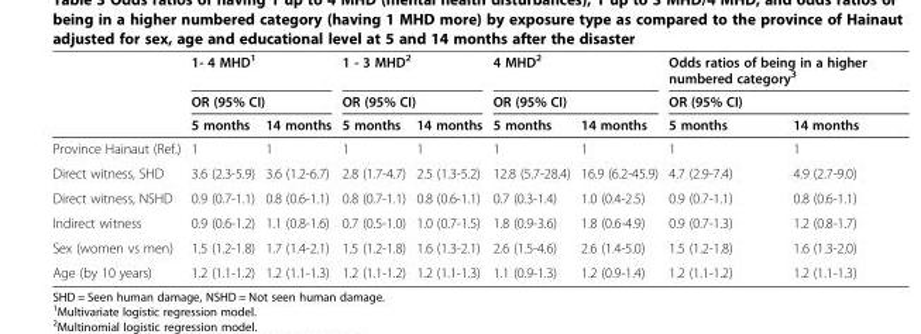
<table><thead><tr><td rowspan="3"></td><td rowspan="2" colspan="2">1- 4 MHD<sup>1</sup> OR (95% CI)</td><td rowspan="2" colspan="2">1 - 3 MHD<sup>2</sup> OR (95% CI)</td><td rowspan="2" colspan="2">4 MHD<sup>2</sup> OR (95% CI)</td><td rowspan="2" colspan="2">Odds ratios of being in a higher numbered category<sup>3</sup> OR (95% CI)</td></tr><tr></tr><tr><td>5 months</td><td>14 months</td><td>5 months</td><td>14 months</td><td>5 months</td><td>14 months</td><td>5 months</td><td>14 months</td></tr></thead><tbody><tr><td>Province Hainaut (Ref.)</td><td>1</td><td>1</td><td>1</td><td>1</td><td>1</td><td>1</td><td>1</td><td>1</td></tr><tr><td>Direct witness, SHD</td><td>3.6 (2.3-5.9)</td><td>3.6 (1.2-6.7)</td><td>2.8 (1.7-4.7)</td><td>2.5 (1.3-5.2)</td><td>12.8 (5.7-28.4)</td><td>16.9 (6.2-45.9)</td><td>4.7 (2.9-7.4)</td><td>4.9 (2.7-9.0)</td></tr><tr><td>Direct witness, NSHD</td><td>0.9 (0.7-1.1)</td><td>0.8 (0.6-1.1)</td><td>0.8 (0.7-1.1)</td><td>0.8 (0.6-1.1)</td><td>0.7 (0.3-1.4)</td><td>1.0 (0.4-2.5)</td><td>0.9 (0.7-1.1)</td><td>0.8 (0.6-1.1)</td></tr><tr><td>Indirect witness</td><td>0.9 (0.6-1.2)</td><td>1.1 (0.8-1.6)</td><td>0.7 (0.5-1.0)</td><td>1.0 (0.7-1.5)</td><td>1.8 (0.9-3.6)</td><td>1.8 (0.6-4.9)</td><td>0.9 (0.7-1.3)</td><td>1.2 (0.8-1.7)</td></tr><tr><td>Sex (women vs men)</td><td>1.5 (1.2-1.8)</td><td>1.7 (1.4-2.1)</td><td>1.5 (1.2-1.8)</td><td>1.6 (1.3-2.1)</td><td>2.6 (1.5-4.6)</td><td>2.6 (1.4-5.0)</td><td>1.5 (1.2-1.8)</td><td>1.6 (1.3-2.0)</td></tr><tr><td>Age (by 10 years)</td><td>1.2 (1.1-1.2)</td><td>1.2 (1.1-1.3)</td><td>1.2 (1.1-1.2)</td><td>1.2 (1.1-1.3)</td><td>1.1 (0.9-1.3)</td><td>1.2 (0.9-1.4)</td><td>1.2 (1.1-1.2)</td><td>1.2 (1.1-1.3)</td></tr></tbody></table>